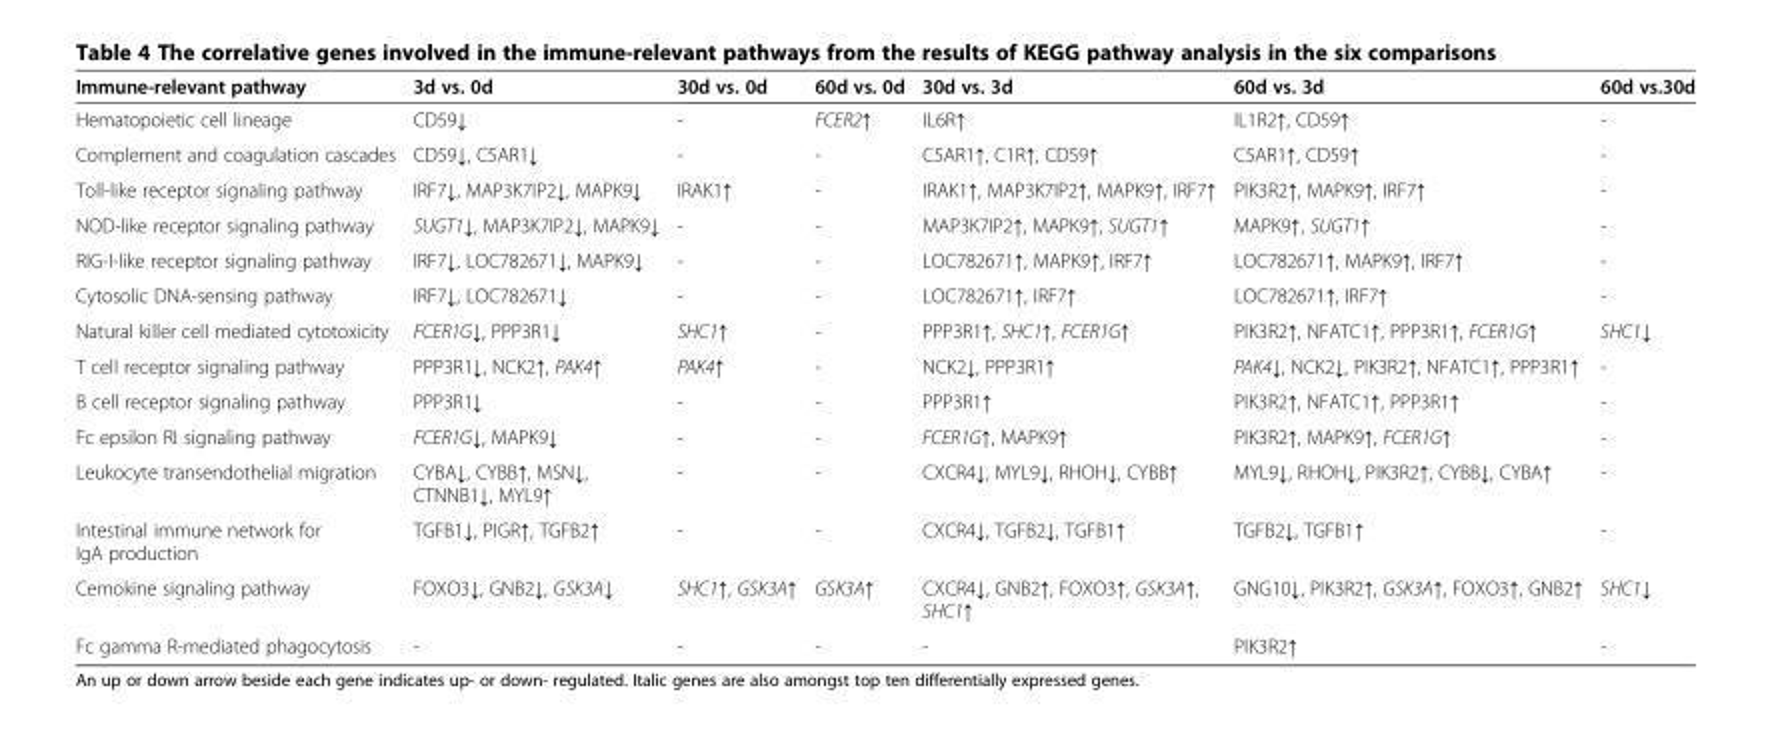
<table><thead><tr><td>Immune-relevant pathway</td><td>3d vs. 0d</td><td>30d vs. 0d</td><td>60d vs. 0d</td><td>30d vs. 3d</td><td>60d vs. 3d</td><td>60d vs.30d</td></tr></thead><tbody><tr><td>Hematopoietic cell lineage</td><td>CD59↓</td><td>-</td><td>FCER2↑</td><td>IL6R↑</td><td>IL1R2↑, CD59↑</td><td>-</td></tr><tr><td>Complement and coagulation cascades</td><td>CD59↓, C5AR1↓</td><td>-</td><td>-</td><td>C5AR1↑, C1R↑, CD59↑</td><td>C5AR1↑, CD59↑</td><td>-</td></tr><tr><td>Toll-like receptor signaling pathway</td><td>IRF7↓, MAP3K7IP2↓, MAPK9↓</td><td>IRAK1↑</td><td>-</td><td>IRAK1↑, MAP3K7IP2↑, MAPK9↑, IRF7↑</td><td>PIK3R2↑, MAPK9↑, IRF7↑</td><td>-</td></tr><tr><td>NOD-like receptor signaling pathway</td><td>SUGT1↓, MAP3K7IP2↓, MAPK9↓</td><td>-</td><td>-</td><td>MAP3K7IP2↑, MAPK9↑, SUGT1↑</td><td>MAPK9↑, SUGT1↑</td><td>-</td></tr><tr><td>RIG-I-like receptor signaling pathway</td><td>IRF7↓, LOC782671↓, MAPK9↓</td><td>-</td><td>-</td><td>LOC782671↑, MAPK9↑, IRF7↑</td><td>LOC782671↑, MAPK9↑, IRF7↑</td><td>-</td></tr><tr><td>Cytosolic DNA-sensing pathway</td><td>IRF7↓, LOC782671↓</td><td>-</td><td>-</td><td>LOC782671↑, IRF7↑</td><td>LOC782671↑, IRF7↑</td><td>-</td></tr><tr><td>Natural killer cell mediated cytotoxicity</td><td>FCER1G↓, PPP3R1↓</td><td>SHC1↑</td><td>-</td><td>PPP3R1↑, SHC1↑, FCER1G↑</td><td>PIK3R2↑, NFATC1↑, PPP3R1↑, FCER1G↑</td><td>SHC1↓</td></tr><tr><td>T cell receptor signaling pathway</td><td>PPP3R1↓, NCK2↑, PAK4↑</td><td>PAK4↑</td><td>-</td><td>NCK2↓, PPP3R1↑</td><td>PAK4↓, NCK2↓, PIK3R2↑, NFATC1↑, PPP3R1↑</td><td>-</td></tr><tr><td>B cell receptor signaling pathway</td><td>PPP3R1↓</td><td>-</td><td>-</td><td>PPP3R1↑</td><td>PIK3R2↑, NFATC1↑, PPP3R1↑</td><td>-</td></tr><tr><td>Fc epsilon RI signaling pathway</td><td>FCER1G↓, MAPK9↓</td><td>-</td><td>-</td><td>FCER1G↑, MAPK9↑</td><td>PIK3R2↑, MAPK9↑, FCER1G↑</td><td>-</td></tr><tr><td>Leukocyte transendothelial migration</td><td>CYBA↓, CYBB↑, MSN↓, CTNNB1↓, MYL9↑</td><td>-</td><td>-</td><td>CXCR4↓, MYL9↓, RHOH↓, CYBB↑</td><td>MYL9↓, RHOH↓, PIK3R2↑, CYBB↓, CYBA↑</td><td>-</td></tr><tr><td>Intestinal immune network for IgA production</td><td>TGFB1↓, PIGR↑, TGFB2↑</td><td>-</td><td>-</td><td>CXCR4↓, TGFB2↓, TGFB1↑</td><td>TGFB2↓, TGFB1↑</td><td>-</td></tr><tr><td>Cemokine signaling pathway</td><td>FOXO3↓, GNB2↓, GSK3A↓</td><td>SHC1↑, GSK3A↑</td><td>GSK3A↑</td><td>CXCR4↓, GNB2↑, FOXO3↑, GSK3A↑, SHC1↑</td><td>GNG10↓, PIK3R2↑, GSK3A↑, FOXO3↑, GNB2↑</td><td>SHC1↓</td></tr><tr><td>Fc gamma R-mediated phagocytosis</td><td>-</td><td>-</td><td>-</td><td>-</td><td>PIK3R2↑</td><td>-</td></tr></tbody></table>